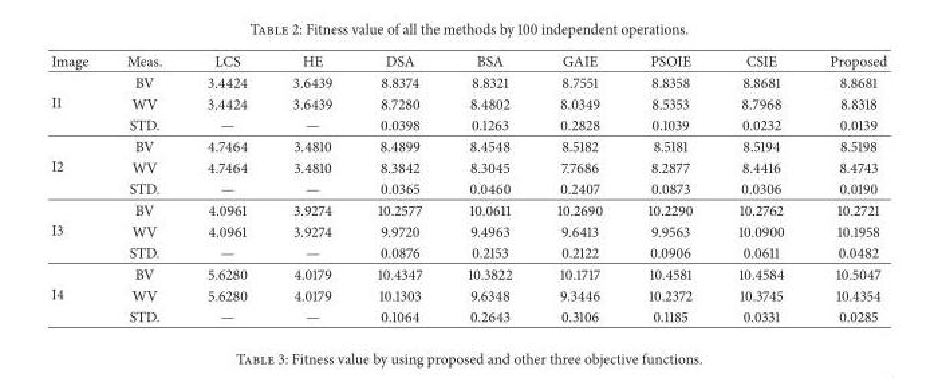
<table><thead><tr><td>Image</td><td>Meas.</td><td>LCS</td><td>HE</td><td>DSA</td><td>BSA</td><td>GAIE</td><td>PSOIE</td><td>CSIE</td><td>Proposed</td></tr></thead><tbody><tr><td rowspan="3">I1</td><td>BV</td><td>3.4424</td><td>3.6439</td><td>8.8374</td><td>8.8321</td><td>8.7551</td><td>8.8358</td><td>8.8681</td><td>8.8681</td></tr><tr><td>WV</td><td>3.4424</td><td>3.6439</td><td>8.7280</td><td>8.4802</td><td>8.0349</td><td>8.5353</td><td>8.7968</td><td>8.8318</td></tr><tr><td>STD.</td><td>—</td><td>—</td><td>0.0398</td><td>0.1263</td><td>0.2828</td><td>0.1039</td><td>0.0232</td><td>0.0139</td></tr><tr><td rowspan="3">I2</td><td>BV</td><td>4.7464</td><td>3.4810</td><td>8.4899</td><td>8.4548</td><td>8.5182</td><td>8.5181</td><td>8.5194</td><td>8.5198</td></tr><tr><td>WV</td><td>4.7464</td><td>3.4810</td><td>8.3842</td><td>8.3045</td><td>7.7686</td><td>8.2877</td><td>8.4416</td><td>8.4743</td></tr><tr><td>STD.</td><td>—</td><td>—</td><td>0.0365</td><td>0.0460</td><td>0.2407</td><td>0.0873</td><td>0.0306</td><td>0.0190</td></tr><tr><td rowspan="3">I3</td><td>BV</td><td>4.0961</td><td>3.9274</td><td>10.2577</td><td>10.0611</td><td>10.2690</td><td>10.2290</td><td>10.2762</td><td>10.2721</td></tr><tr><td>WV</td><td>4.0961</td><td>3.9274</td><td>9.9720</td><td>9.4963</td><td>9.6413</td><td>9.9563</td><td>10.0900</td><td>10.1958</td></tr><tr><td>STD.</td><td>—</td><td>—</td><td>0.0876</td><td>0.2153</td><td>0.2122</td><td>0.0906</td><td>0.0611</td><td>0.0482</td></tr><tr><td rowspan="3">I4</td><td>BV</td><td>5.6280</td><td>4.0179</td><td>10.4347</td><td>10.3822</td><td>10.1717</td><td>10.4581</td><td>10.4584</td><td>10.5047</td></tr><tr><td>WV</td><td>5.6280</td><td>4.0179</td><td>10.1303</td><td>9.6348</td><td>9.3446</td><td>10.2372</td><td>10.3745</td><td>10.4354</td></tr><tr><td>STD.</td><td>—</td><td>—</td><td>0.1064</td><td>0.2643</td><td>0.3106</td><td>0.1185</td><td>0.0331</td><td>0.0285</td></tr></tbody></table>